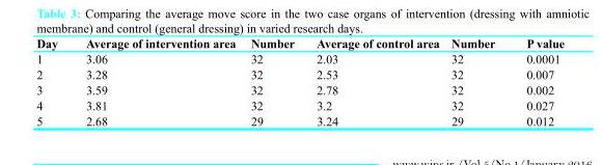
<table><thead><tr><td>Day</td><td>Average of intervention area</td><td>Number</td><td>Average of control area</td><td>Number</td><td>P value</td></tr></thead><tbody><tr><td>1</td><td>3.06</td><td>32</td><td>2.03</td><td>32</td><td>0.0001</td></tr><tr><td>2</td><td>3.28</td><td>32</td><td>2.53</td><td>32</td><td>0.007</td></tr><tr><td>3</td><td>3.59</td><td>32</td><td>2.78</td><td>32</td><td>0.002</td></tr><tr><td>4</td><td>3.81</td><td>32</td><td>3.2</td><td>32</td><td>0.027</td></tr><tr><td>5</td><td>2.68</td><td>29</td><td>3.24</td><td>29</td><td>0.012</td></tr></tbody></table>